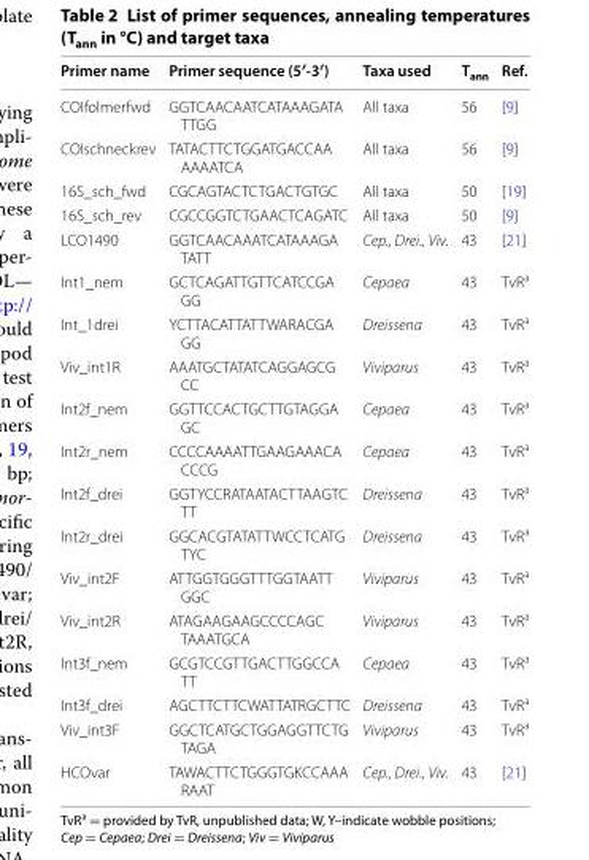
<table><thead><tr><td>Primer name</td><td>Primer sequence (5′-3′)</td><td>Taxa used</td><td>T<sub>ann</sub></td><td>Ref.</td></tr></thead><tbody><tr><td>COIfolmerfwd</td><td>GGTCAACAATCATAAAGATA TTGG</td><td>All taxa</td><td>56</td><td>[9]</td></tr><tr><td>COIschneckrev</td><td>TATACTTCTGGATGACCAA AAAATCA</td><td>All taxa</td><td>56</td><td>[9]</td></tr><tr><td>16S_sch_fwd</td><td>CGCAGTACTCTGACTGTGC</td><td>All taxa</td><td>50</td><td>[19]</td></tr><tr><td>16S_sch_rev</td><td>CGCCGGTCTGAACTCAGATC</td><td>All taxa</td><td>50</td><td>[9]</td></tr><tr><td>LCO1490</td><td>GGTCAACAAATCATAAAGA TATT</td><td>Cep., Drei., Viv.</td><td>43</td><td>[21]</td></tr><tr><td>Int1_nem</td><td>GCTCAGATTGTTCATCCGA GG</td><td>Cepaea</td><td>43</td><td>TvR<sup>a</sup></td></tr><tr><td>Int_1drei</td><td>YCTTACATTATTWARACGA GG</td><td>Dreissena</td><td>43</td><td>TvR<sup>a</sup></td></tr><tr><td>Viv_int1R</td><td>AAATGCTATATCAGGAGCG CC</td><td>Viviparus</td><td>43</td><td>TvR<sup>a</sup></td></tr><tr><td>Int2f_nem</td><td>GGTTCCACTGCTTGTAGGA GC</td><td>Cepaea</td><td>43</td><td>TvR<sup>a</sup></td></tr><tr><td>Int2r_nem</td><td>CCCCAAAATTGAAGAAACA CCCG</td><td>Cepaea</td><td>43</td><td>TvR<sup>a</sup></td></tr><tr><td>Int2f_drei</td><td>GGTYCCRATAATACTTAAGTC TT</td><td>Dreissena</td><td>43</td><td>TvR<sup>a</sup></td></tr><tr><td>Int2r_drei</td><td>GGCACGTATATTWCCTCATG TYC</td><td>Dreissena</td><td>43</td><td>TvR<sup>a</sup></td></tr><tr><td>Viv_int2F</td><td>ATTGGTGGGTTTGGTAATT GGC</td><td>Viviparus</td><td>43</td><td>TvR<sup>a</sup></td></tr><tr><td>Viv_int2R</td><td>ATAGAAGAAGCCCCAGC TAAATGCA</td><td>Viviparus</td><td>43</td><td>TvR<sup>a</sup></td></tr><tr><td>Int3f_nem</td><td>GCGTCCGTTGACTTGGCCA TT</td><td>Cepaea</td><td>43</td><td>TvR<sup>a</sup></td></tr><tr><td>Int3f_drei</td><td>AGCTTCTTCWATTATRGCTTC</td><td>Dreissena</td><td>43</td><td>TvR<sup>a</sup></td></tr><tr><td>Viv_int3F</td><td>GGCTCATGCTGGAGGTTCTG TAGA</td><td>Viviparus</td><td>43</td><td>TvR<sup>a</sup></td></tr><tr><td>HCOvar</td><td>TAWACTTCTGGGTGKCCAAA RAAT</td><td>Cep., Drei., Viv.</td><td>43</td><td>[21]</td></tr></tbody></table>